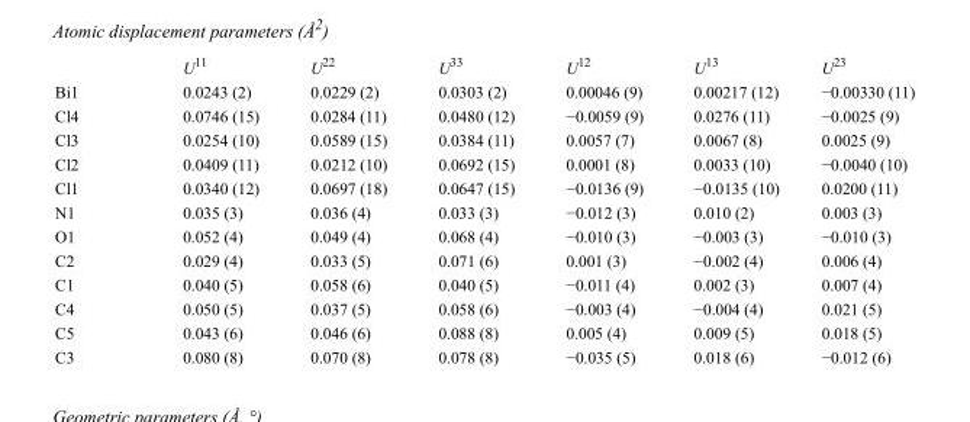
<table><thead><tr><td></td><td>U<sup>11</sup></td><td>U<sup>22</sup></td><td>U<sup>33</sup></td><td>U<sup>12</sup></td><td>U<sup>13</sup></td><td>U<sup>23</sup></td></tr></thead><tbody><tr><td>Bi1</td><td>0.0243 (2)</td><td>0.0229 (2)</td><td>0.0303 (2)</td><td>0.00046 (9)</td><td>0.00217 (12)</td><td>−0.00330 (11)</td></tr><tr><td>Cl4</td><td>0.0746 (15)</td><td>0.0284 (11)</td><td>0.0480 (12)</td><td>−0.0059 (9)</td><td>0.0276 (11)</td><td>−0.0025 (9)</td></tr><tr><td>Cl3</td><td>0.0254 (10)</td><td>0.0589 (15)</td><td>0.0384 (11)</td><td>0.0057 (7)</td><td>0.0067 (8)</td><td>0.0025 (9)</td></tr><tr><td>Cl2</td><td>0.0409 (11)</td><td>0.0212 (10)</td><td>0.0692 (15)</td><td>0.0001 (8)</td><td>0.0033 (10)</td><td>−0.0040 (10)</td></tr><tr><td>Cl1</td><td>0.0340 (12)</td><td>0.0697 (18)</td><td>0.0647 (15)</td><td>−0.0136 (9)</td><td>−0.0135 (10)</td><td>0.0200 (11)</td></tr><tr><td>N1</td><td>0.035 (3)</td><td>0.036 (4)</td><td>0.033 (3)</td><td>−0.012 (3)</td><td>0.010 (2)</td><td>0.003 (3)</td></tr><tr><td>O1</td><td>0.052 (4)</td><td>0.049 (4)</td><td>0.068 (4)</td><td>−0.010 (3)</td><td>−0.003 (3)</td><td>−0.010 (3)</td></tr><tr><td>C2</td><td>0.029 (4)</td><td>0.033 (5)</td><td>0.071 (6)</td><td>0.001 (3)</td><td>−0.002 (4)</td><td>0.006 (4)</td></tr><tr><td>C1</td><td>0.040 (5)</td><td>0.058 (6)</td><td>0.040 (5)</td><td>−0.011 (4)</td><td>0.002 (3)</td><td>0.007 (4)</td></tr><tr><td>C4</td><td>0.050 (5)</td><td>0.037 (5)</td><td>0.058 (6)</td><td>−0.003 (4)</td><td>−0.004 (4)</td><td>0.021 (5)</td></tr><tr><td>C5</td><td>0.043 (6)</td><td>0.046 (6)</td><td>0.088 (8)</td><td>0.005 (4)</td><td>0.009 (5)</td><td>0.018 (5)</td></tr><tr><td>C3</td><td>0.080 (8)</td><td>0.070 (8)</td><td>0.078 (8)</td><td>−0.035 (5)</td><td>0.018 (6)</td><td>−0.012 (6)</td></tr></tbody></table>